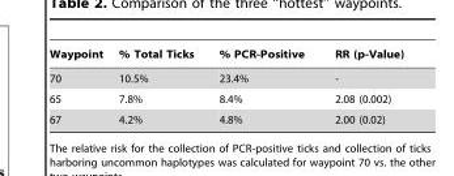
<table><thead><tr><td>Waypoint</td><td>% Total Ticks</td><td>% PCR-Positive</td><td>RR (p-Value)</td></tr></thead><tbody><tr><td>70</td><td>10.5%</td><td>23.4%</td><td>-</td></tr><tr><td>65</td><td>7.8%</td><td>8.4%</td><td>2.08 (0.002)</td></tr><tr><td>67</td><td>4.2%</td><td>4.8%</td><td>2.00 (0.02)</td></tr></tbody></table>